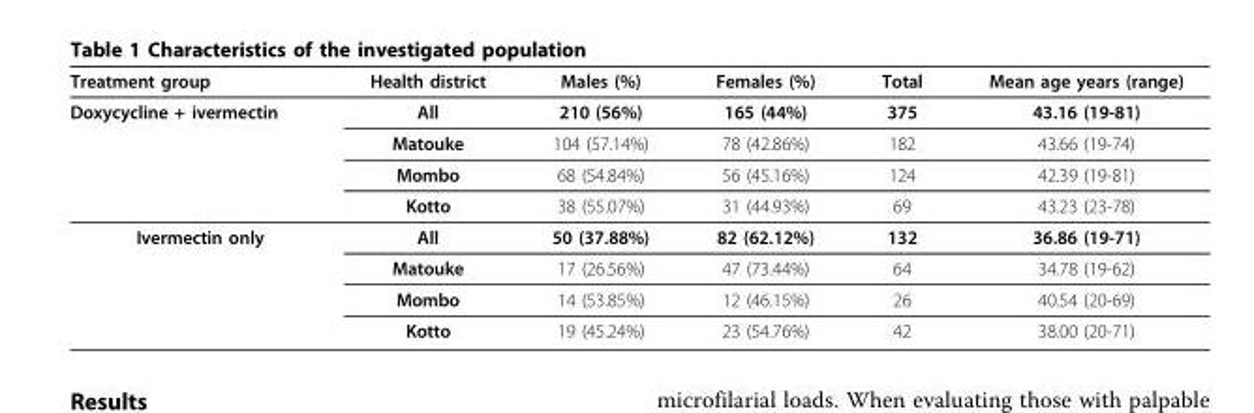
<table><thead><tr><td>Treatment group</td><td>Health district</td><td>Males (%)</td><td>Females (%)</td><td>Total</td><td>Mean age years (range)</td></tr></thead><tbody><tr><td rowspan="4">Doxycycline + ivermectin</td><td>All</td><td>210 (56%)</td><td>165 (44%)</td><td>375</td><td>43.16 (19-81)</td></tr><tr><td>Matouke</td><td>104 (57.14%)</td><td>78 (42.86%)</td><td>182</td><td>43.66 (19-74)</td></tr><tr><td>Mombo</td><td>68 (54.84%)</td><td>56 (45.16%)</td><td>124</td><td>42.39 (19-81)</td></tr><tr><td>Kotto</td><td>38 (55.07%)</td><td>31 (44.93%)</td><td>69</td><td>43.23 (23-78)</td></tr><tr><td rowspan="4">Ivermectin only</td><td>All</td><td>50 (37.88%)</td><td>82 (62.12%)</td><td>132</td><td>36.86 (19-71)</td></tr><tr><td>Matouke</td><td>17 (26.56%)</td><td>47 (73.44%)</td><td>64</td><td>34.78 (19-62)</td></tr><tr><td>Mombo</td><td>14 (53.85%)</td><td>12 (46.15%)</td><td>26</td><td>40.54 (20-69)</td></tr><tr><td>Kotto</td><td>19 (45.24%)</td><td>23 (54.76%)</td><td>42</td><td>38.00 (20-71)</td></tr></tbody></table>